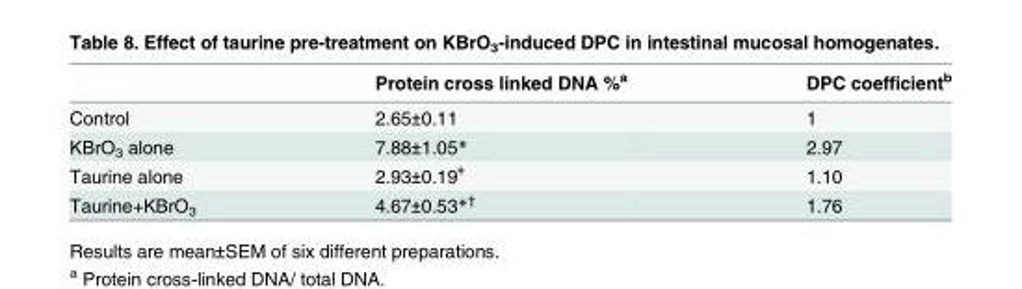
<table><thead><tr><td></td><td>Protein cross linked DNA %<sup>a</sup></td><td>DPC coefficient<sup>b</sup></td></tr></thead><tbody><tr><td>Control</td><td>2.65±0.11</td><td>1</td></tr><tr><td>KBrO<sub>3</sub> alone</td><td>7.88±1.05*</td><td>2.97</td></tr><tr><td>Taurine alone</td><td>2.93±0.19<sup>ǂ</sup></td><td>1.10</td></tr><tr><td>Taurine+KBrO<sub>3</sub></td><td>4.67±0.53*<sup>†</sup></td><td>1.76</td></tr></tbody></table>